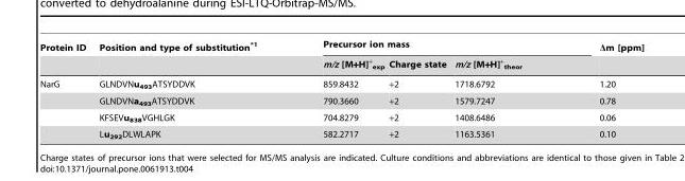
<table><thead><tr><td rowspan="2">Protein ID</td><td rowspan="2">Position and type of substitution<sup>*1</sup></td><td colspan="3">Precursor ion mass</td><td rowspan="2">Δm [ppm]</td></tr><tr><td>m/z [M+H]<sup>+</sup> <sub>exp</sub></td><td>Charge state</td><td>m/z [M+H]<sup>+</sup> <sub>theor</sub></td></tr></thead><tbody><tr><td rowspan="4">NarG</td><td>GLNDVNu<sub>493</sub>ATSYDDVK</td><td>859.8432</td><td>+2</td><td>1718.6792</td><td>1.20</td></tr><tr><td>GLNDVNa<sub>493</sub>ATSYDDVK</td><td>790.3660</td><td>+2</td><td>1579.7247</td><td>0.78</td></tr><tr><td>KFSEVu<sub>838</sub>VGHLGK</td><td>704.8279</td><td>+2</td><td>1408.6486</td><td>0.06</td></tr><tr><td>Lu<sub>292</sub>DLWLAPK</td><td>582.2717</td><td>+2</td><td>1163.5361</td><td>0.10</td></tr></tbody></table>